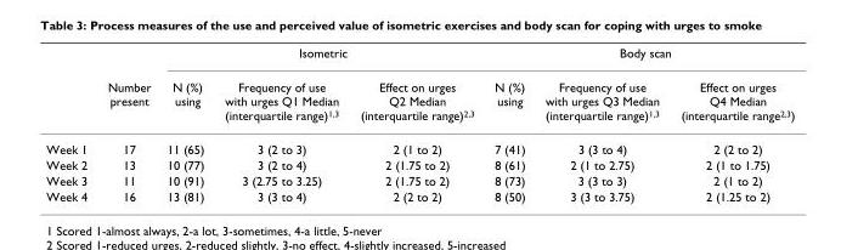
<table><thead><tr><td rowspan="2"></td><td rowspan="2">Number present</td><td colspan="3">Isometric</td><td colspan="3">Body scan</td></tr><tr><td>N (%) using</td><td>Frequency of use with urges Q1 Median (interquartile range)<sup>1,3</sup></td><td>Effect on urges Q2 Median (interquartile range)<sup>2,3</sup></td><td>N (%) using</td><td>Frequency of use with urges Q3 Median (interquartile range)<sup>1,3</sup></td><td>Effect on urges Q4 Median (interquartile range<sup>2,3</sup>)</td></tr></thead><tbody><tr><td>Week 1</td><td>17</td><td>11 (65)</td><td>3 (2 to 3)</td><td>2 (1 to 2)</td><td>7 (41)</td><td>3 (3 to 4)</td><td>2 (2 to 2)</td></tr><tr><td>Week 2</td><td>13</td><td>10 (77)</td><td>3 (2 to 4)</td><td>2 (1.75 to 2)</td><td>8 (61)</td><td>2 (1 to 2.75)</td><td>2 (1 to 1.75)</td></tr><tr><td>Week 3</td><td>11</td><td>10 (91)</td><td>3 (2.75 to 3.25)</td><td>2 (1.75 to 2)</td><td>8 (73)</td><td>3 (3 to 3)</td><td>2 (1 to 2)</td></tr><tr><td>Week 4</td><td>16</td><td>13 (81)</td><td>3 (3 to 4)</td><td>2 (2 to 2)</td><td>8 (50)</td><td>3 (3 to 3.75)</td><td>2 (1.25 to 2)</td></tr></tbody></table>